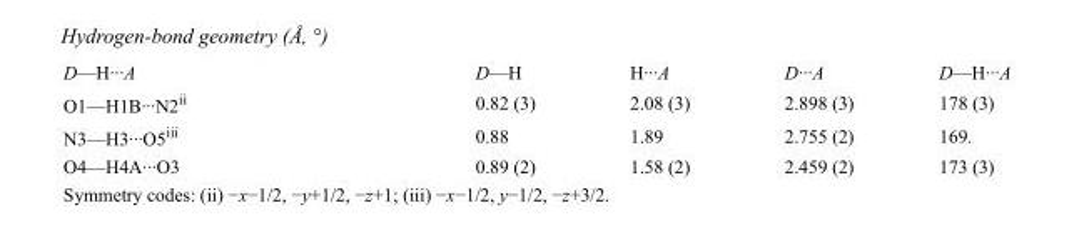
<table><tbody><tr><td>D—H···A</td><td>D—H</td><td>H···A</td><td>D···A</td><td>D—H···A</td></tr><tr><td>O1—H1B···N2<sup>ii</sup></td><td>0.82 (3)</td><td>2.08 (3)</td><td>2.898 (3)</td><td>178 (3)</td></tr><tr><td>N3—H3···O5<sup>iii</sup></td><td>0.88</td><td>1.89</td><td>2.755 (2)</td><td>169.</td></tr><tr><td>O4—H4A···O3</td><td>0.89 (2)</td><td>1.58 (2)</td><td>2.459 (2)</td><td>173 (3)</td></tr></tbody></table>